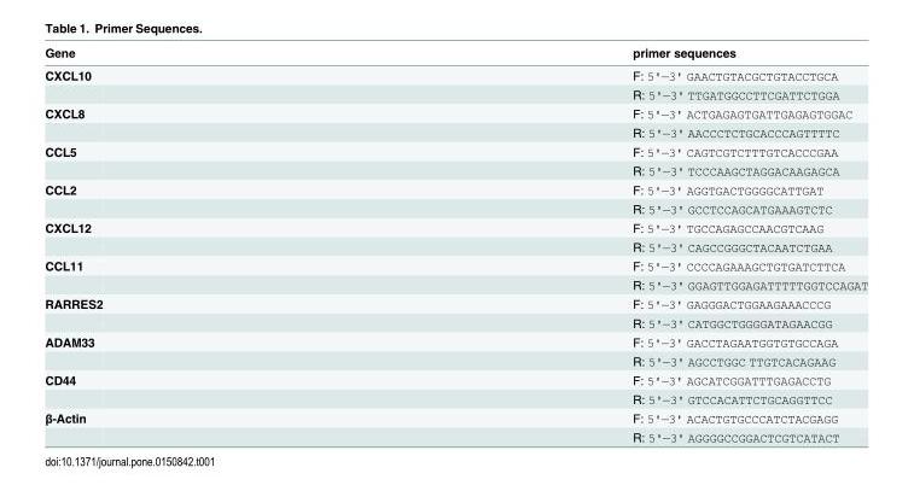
<table><thead><tr><td>Gene</td><td>primer sequences</td></tr></thead><tbody><tr><td rowspan="2">CXCL10</td><td>F: 5&#x27;—3&#x27; GAACTGTACGCTGTACCTGCA</td></tr><tr><td>R: 5&#x27;—3&#x27; TTGATGGCCTTCGATTCTGGA</td></tr><tr><td rowspan="2">CXCL8</td><td>F: 5&#x27;—3&#x27; ACTGAGAGTGATTGAGAGTGGAC</td></tr><tr><td>R: 5&#x27;—3&#x27; AACCCTCTGCACCCAGTTTTC</td></tr><tr><td rowspan="2">CCL5</td><td>F: 5&#x27;—3&#x27; CAGTCGTCTTTGTCACCCGAA</td></tr><tr><td>R: 5&#x27;—3&#x27; TCCCAAGCTAGGACAAGAGCA</td></tr><tr><td rowspan="2">CCL2</td><td>F: 5&#x27;—3&#x27; AGGTGACTGGGGCATTGAT</td></tr><tr><td>R: 5&#x27;—3&#x27; GCCTCCAGCATGAAAGTCTC</td></tr><tr><td rowspan="2">CXCL12</td><td>F: 5&#x27;—3&#x27; TGCCAGAGCCAACGTCAAG</td></tr><tr><td>R: 5&#x27;—3&#x27; CAGCCGGGCTACAATCTGAA</td></tr><tr><td rowspan="2">CCL11</td><td>F: 5&#x27;—3&#x27; CCCCAGAAAGCTGTGATCTTCA</td></tr><tr><td>R: 5&#x27;—3&#x27; GGAGTTGGAGATTTTTGGTCCAGAT</td></tr><tr><td rowspan="2">RARRES2</td><td>F: 5&#x27;—3&#x27; GAGGGACTGGAAGAAACCCG</td></tr><tr><td>R: 5&#x27;—3&#x27; CATGGCTGGGGATAGAACGG</td></tr><tr><td rowspan="2">ADAM33</td><td>F: 5&#x27;—3&#x27; GACCTAGAATGGTGTGCCAGA</td></tr><tr><td>R: 5&#x27;—3&#x27; AGCCTGGC TTGTCACAGAAG</td></tr><tr><td rowspan="2">CD44</td><td>F: 5&#x27;—3&#x27; AGCATCGGATTTGAGACCTG</td></tr><tr><td>R: 5&#x27;—3&#x27; GTCCACATTCTGCAGGTTCC</td></tr><tr><td rowspan="2">β-Actin</td><td>F: 5&#x27;—3&#x27; ACACTGTGCCCATCTACGAGG</td></tr><tr><td>R: 5&#x27;—3&#x27; AGGGGCCGGACTCGTCATACT</td></tr></tbody></table>